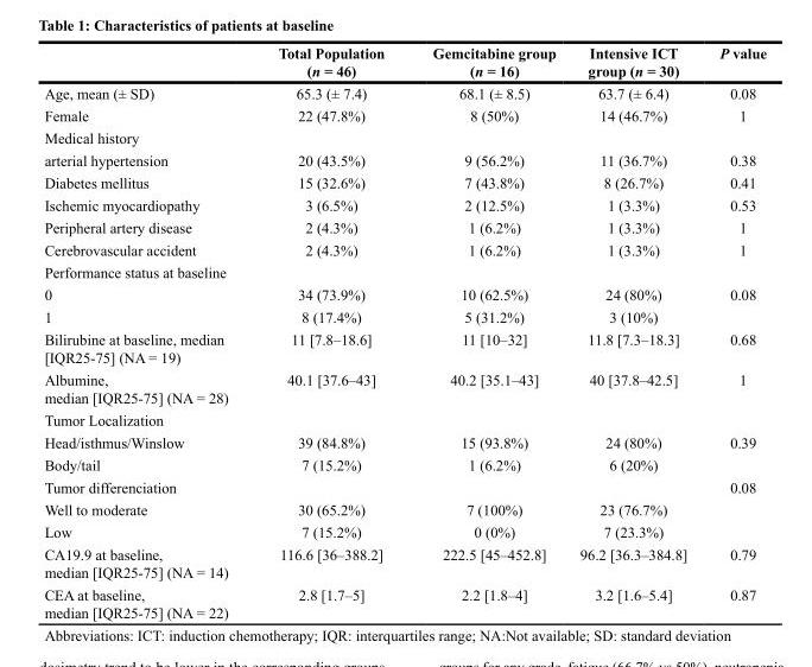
<table><thead><tr><td></td><td>Total Population (n = 46)</td><td>Gemcitabine group (n = 16)</td><td>Intensive ICT group (n = 30)</td><td>P value</td></tr></thead><tbody><tr><td>Age, mean (± SD)</td><td>65.3 (± 7.4)</td><td>68.1 (± 8.5)</td><td>63.7 (± 6.4)</td><td>0.08</td></tr><tr><td>Female</td><td>22 (47.8%)</td><td>8 (50%)</td><td>14 (46.7%)</td><td>1</td></tr><tr><td colspan="5">Medical history</td></tr><tr><td>arterial hypertension</td><td>20 (43.5%)</td><td>9 (56.2%)</td><td>11 (36.7%)</td><td>0.38</td></tr><tr><td>Diabetes mellitus</td><td>15 (32.6%)</td><td>7 (43.8%)</td><td>8 (26.7%)</td><td>0.41</td></tr><tr><td>Ischemic myocardiopathy</td><td>3 (6.5%)</td><td>2 (12.5%)</td><td>1 (3.3%)</td><td>0.53</td></tr><tr><td>Peripheral artery disease</td><td>2 (4.3%)</td><td>1 (6.2%)</td><td>1 (3.3%)</td><td>1</td></tr><tr><td>Cerebrovascular accident</td><td>2 (4.3%)</td><td>1 (6.2%)</td><td>1 (3.3%)</td><td>1</td></tr><tr><td colspan="5">Performance status at baseline</td></tr><tr><td>0</td><td>34 (73.9%)</td><td>10 (62.5%)</td><td>24 (80%)</td><td>0.08</td></tr><tr><td>1</td><td>8 (17.4%)</td><td>5 (31.2%)</td><td>3 (10%)</td><td></td></tr><tr><td>Bilirubine at baseline, median [IQR25-75] (NA = 19)</td><td>11 [7.8–18.6]</td><td>11 [10–32]</td><td>11.8 [7.3–18.3]</td><td>0.68</td></tr><tr><td>Albumine, median [IQR25-75] (NA = 28)</td><td>40.1 [37.6–43]</td><td>40.2 [35.1–43]</td><td>40 [37.8–42.5]</td><td>1</td></tr><tr><td colspan="5">Tumor Localization</td></tr><tr><td>Head/isthmus/Winslow</td><td>39 (84.8%)</td><td>15 (93.8%)</td><td>24 (80%)</td><td>0.39</td></tr><tr><td>Body/tail</td><td>7 (15.2%)</td><td>1 (6.2%)</td><td>6 (20%)</td><td></td></tr><tr><td>Tumor differenciation</td><td></td><td></td><td></td><td>0.08</td></tr><tr><td>Well to moderate</td><td>30 (65.2%)</td><td>7 (100%)</td><td>23 (76.7%)</td><td></td></tr><tr><td>Low</td><td>7 (15.2%)</td><td>0 (0%)</td><td>7 (23.3%)</td><td></td></tr><tr><td>CA19.9 at baseline, median [IQR25-75] (NA = 14)</td><td>116.6 [36–388.2]</td><td>222.5 [45–452.8]</td><td>96.2 [36.3–384.8]</td><td>0.79</td></tr><tr><td>CEA at baseline, median [IQR25-75] (NA = 22)</td><td>2.8 [1.7–5]</td><td>2.2 [1.8–4]</td><td>3.2 [1.6–5.4]</td><td>0.87</td></tr></tbody></table>